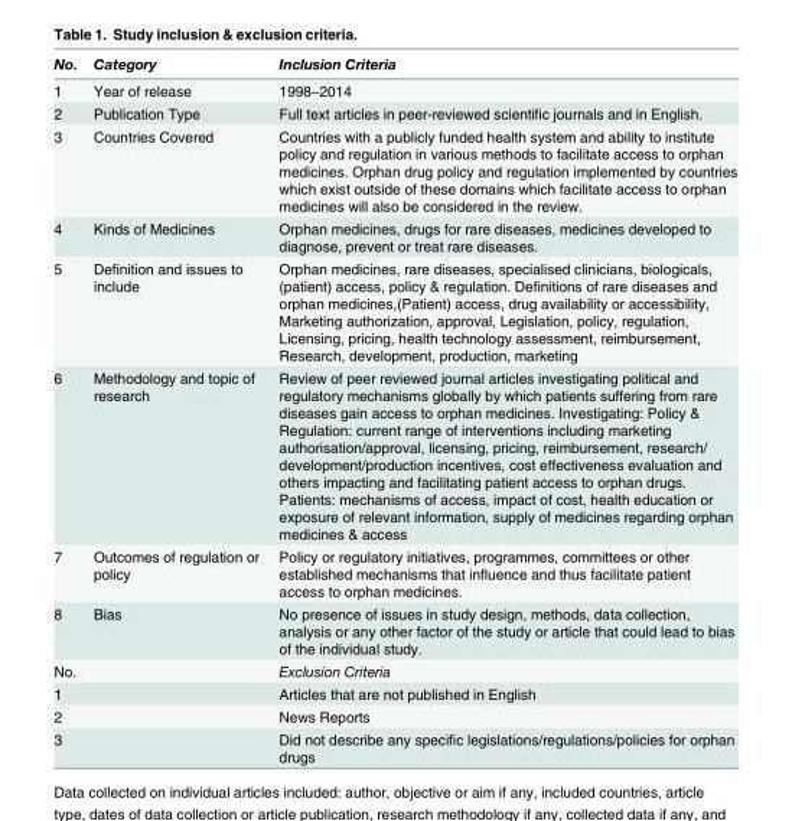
<table><thead><tr><td>No.</td><td>Category</td><td>Inclusion Criteria</td></tr></thead><tbody><tr><td>1</td><td>Year of release</td><td>1998–2014</td></tr><tr><td>2</td><td>Publication Type</td><td>Full text articles in peer-reviewed scientific journals and in English.</td></tr><tr><td>3</td><td>Countries Covered</td><td>Countries with a publicly funded health system and ability to institute policy and regulation in various methods to facilitate access to orphan medicines. Orphan drug policy and regulation implemented by countries which exist outside of these domains which facilitate access to orphan medicines will also be considered in the review.</td></tr><tr><td>4</td><td>Kinds of Medicines</td><td>Orphan medicines, drugs for rare diseases, medicines developed to diagnose, prevent or treat rare diseases.</td></tr><tr><td>5</td><td>Definition and issues to include</td><td>Orphan medicines, rare diseases, specialised clinicians, biologicals, (patient) access, policy &amp; regulation. Definitions of rare diseases and orphan medicines,(Patient) access, drug availability or accessibility, Marketing authorization, approval, Legislation, policy, regulation, Licensing, pricing, health technology assessment, reimbursement, Research, development, production, marketing</td></tr><tr><td>6</td><td>Methodology and topic of research</td><td>Review of peer reviewed journal articles investigating political and regulatory mechanisms globally by which patients suffering from rare diseases gain access to orphan medicines. Investigating: Policy &amp; Regulation: current range of interventions including marketing authorisation/approval, licensing, pricing, reimbursement, research/ development/production incentives, cost effectiveness evaluation and others impacting and facilitating patient access to orphan drugs. Patients: mechanisms of access, impact of cost, health education or exposure of relevant information, supply of medicines regarding orphan medicines &amp; access</td></tr><tr><td>7</td><td>Outcomes of regulation or policy</td><td>Policy or regulatory initiatives, programmes, committees or other established mechanisms that influence and thus facilitate patient access to orphan medicines.</td></tr><tr><td>8</td><td>Bias</td><td>No presence of issues in study design, methods, data collection, analysis or any other factor of the study or article that could lead to bias of the individual study.</td></tr><tr><td colspan="2">No.</td><td>Exclusion Criteria</td></tr><tr><td colspan="2">1</td><td>Articles that are not published in English</td></tr><tr><td colspan="2">2</td><td>News Reports</td></tr><tr><td colspan="2">3</td><td>Did not describe any specific legislations/regulations/policies for orphan drugs</td></tr></tbody></table>